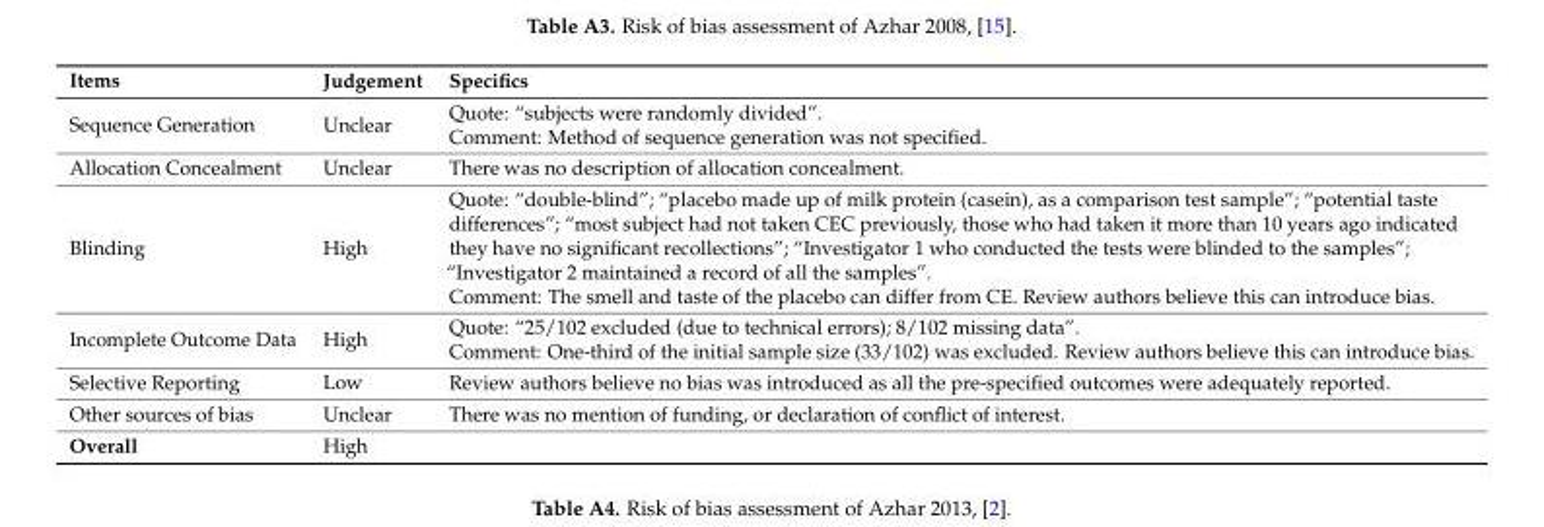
<table><thead><tr><td>Items</td><td>Judgement</td><td>Specifics</td></tr></thead><tbody><tr><td>Sequence Generation</td><td>Unclear</td><td>Quote: “subjects were randomly divided”. Comment: Method of sequence generation was not specified.</td></tr><tr><td>Allocation Concealment</td><td>Unclear</td><td>There was no description of allocation concealment.</td></tr><tr><td>Blinding</td><td>High</td><td>Quote: “double-blind”; “placebo made up of milk protein (casein), as a comparison test sample”; “potential taste differences”; “most subject had not taken CEC previously, those who had taken it more than 10 years ago indicated they have no significant recollections”; “Investigator 1 who conducted the tests were blinded to the samples”; “Investigator 2 maintained a record of all the samples”. Comment: The smell and taste of the placebo can differ from CE. Review authors believe this can introduce bias.</td></tr><tr><td>Incomplete Outcome Data</td><td>High</td><td>Quote: “25/102 excluded (due to technical errors); 8/102 missing data”. Comment: One-third of the initial sample size (33/102) was excluded. Review authors believe this can introduce bias.</td></tr><tr><td>Selective Reporting</td><td>Low</td><td>Review authors believe no bias was introduced as all the pre-specified outcomes were adequately reported.</td></tr><tr><td>Other sources of bias</td><td>Unclear</td><td>There was no mention of funding, or declaration of conflict of interest.</td></tr><tr><td>Overall</td><td>High</td><td></td></tr></tbody></table>